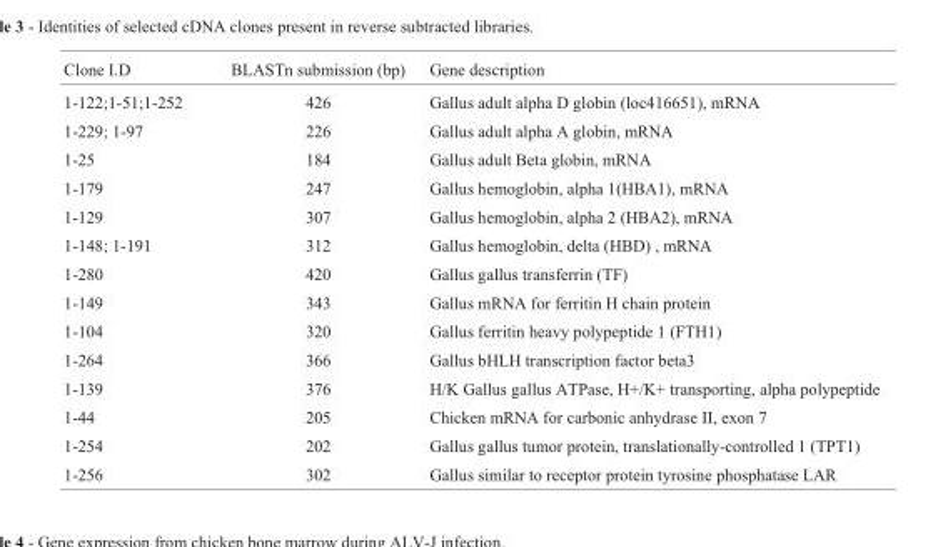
<table><thead><tr><td>Clone I.D</td><td>BLASTn submission (bp)</td><td>Gene description</td></tr></thead><tbody><tr><td>1-122;1-51;1-252</td><td>426</td><td>Gallus adult alpha D globin (loc416651), mRNA</td></tr><tr><td>1-229; 1-97</td><td>226</td><td>Gallus adult alpha A globin, mRNA</td></tr><tr><td>1-25</td><td>184</td><td>Gallus adult Beta globin, mRNA</td></tr><tr><td>1-179</td><td>247</td><td>Gallus hemoglobin, alpha 1(HBA1), mRNA</td></tr><tr><td>1-129</td><td>307</td><td>Gallus hemoglobin, alpha 2 (HBA2), mRNA</td></tr><tr><td>1-148; 1-191</td><td>312</td><td>Gallus hemoglobin, delta (HBD) , mRNA</td></tr><tr><td>1-280</td><td>420</td><td>Gallus gallus transferrin (TF)</td></tr><tr><td>1-149</td><td>343</td><td>Gallus mRNA for ferritin H chain protein</td></tr><tr><td>1-104</td><td>320</td><td>Gallus ferritin heavy polypeptide 1 (FTH1)</td></tr><tr><td>1-264</td><td>366</td><td>Gallus bHLH transcription factor beta3</td></tr><tr><td>1-139</td><td>376</td><td>H/K Gallus gallus ATPase, H+/K+ transporting, alpha polypeptide</td></tr><tr><td>1-44</td><td>205</td><td>Chicken mRNA for carbonic anhydrase II, exon 7</td></tr><tr><td>1-254</td><td>202</td><td>Gallus gallus tumor protein, translationally-controlled 1 (TPT1)</td></tr><tr><td>1-256</td><td>302</td><td>Gallus similar to receptor protein tyrosine phosphatase LAR</td></tr></tbody></table>